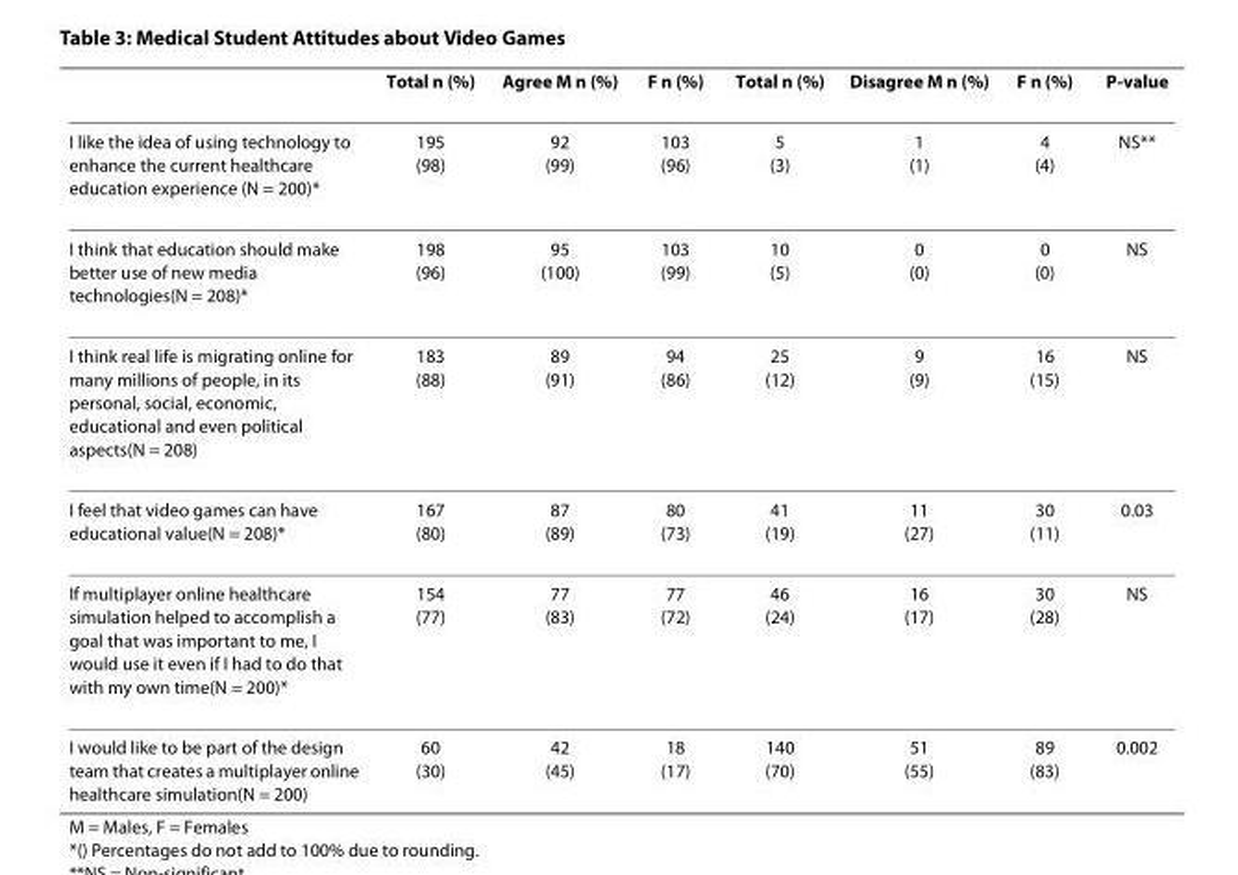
<table><thead><tr><td></td><td>Total n (%)</td><td>Agree M n (%)</td><td>F n (%)</td><td>Total n (%)</td><td>Disagree M n (%)</td><td>F n (%)</td><td>P-value</td></tr></thead><tbody><tr><td>I like the idea of using technology to enhance the current healthcare education experience (N = 200)*</td><td>195 (98)</td><td>92 (99)</td><td>103 (96)</td><td>5 (3)</td><td>1 (1)</td><td>4 (4)</td><td>NS**</td></tr><tr><td>I think that education should make better use of new media technologies(N = 208)*</td><td>198 (96)</td><td>95 (100)</td><td>103 (99)</td><td>10 (5)</td><td>0 (0)</td><td>0 (0)</td><td>NS</td></tr><tr><td>I think real life is migrating online for many millions of people, in its personal, social, economic, educational and even political aspects(N = 208)</td><td>183 (88)</td><td>89 (91)</td><td>94 (86)</td><td>25 (12)</td><td>9 (9)</td><td>16 (15)</td><td>NS</td></tr><tr><td>I feel that video games can have educational value(N = 208)*</td><td>167 (80)</td><td>87 (89)</td><td>80 (73)</td><td>41 (19)</td><td>11 (27)</td><td>30 (11)</td><td>0.03</td></tr><tr><td>If multiplayer online healthcare simulation helped to accomplish a goal that was important to me, I would use it even if I had to do that with my own time(N = 200)*</td><td>154 (77)</td><td>77 (83)</td><td>77 (72)</td><td>46 (24)</td><td>16 (17)</td><td>30 (28)</td><td>NS</td></tr><tr><td>I would like to be part of the design team that creates a multiplayer online healthcare simulation(N = 200)</td><td>60 (30)</td><td>42 (45)</td><td>18 (17)</td><td>140 (70)</td><td>51 (55)</td><td>89 (83)</td><td>0.002</td></tr></tbody></table>